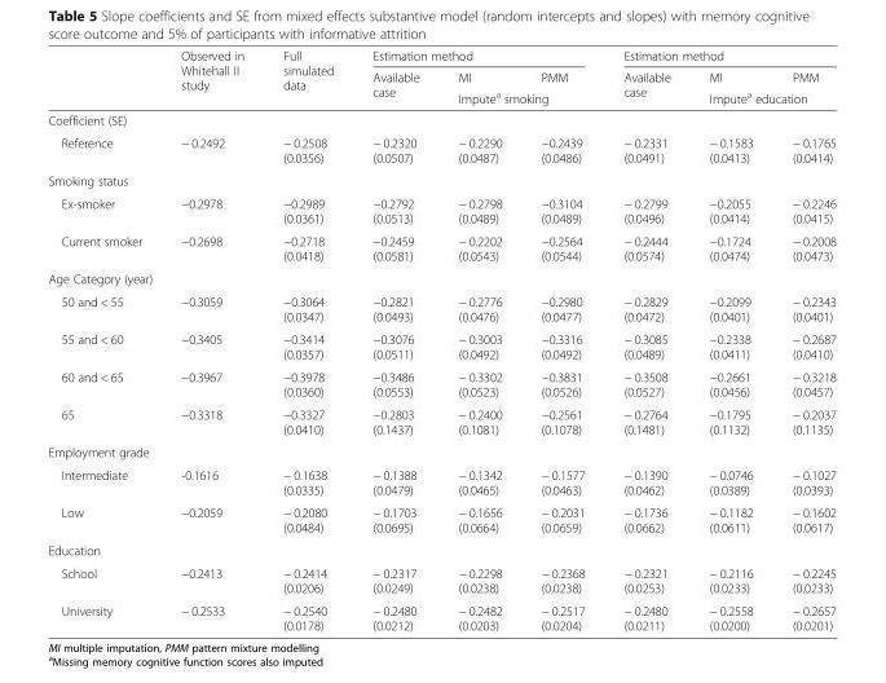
<table><thead><tr><td rowspan="3"></td><td rowspan="3">Observed in Whitehall II study</td><td rowspan="3">Full simulated data</td><td colspan="3">Estimation method</td><td colspan="3">Estimation method</td></tr><tr><td rowspan="2">Available case</td><td>MI</td><td>PMM</td><td rowspan="2">Available case</td><td>MI</td><td>PMM</td></tr><tr><td colspan="2">Impute<sup>a</sup> smoking</td><td colspan="2">Impute<sup>a</sup> education</td></tr></thead><tbody><tr><td colspan="9">Coefficient (SE)</td></tr><tr><td>Reference</td><td>− 0.2492</td><td>− 0.2508 (0.0356)</td><td>− 0.2320 (0.0507)</td><td>− 0.2290 (0.0487)</td><td>−0.2439 (0.0486)</td><td>− 0.2331 (0.0491)</td><td>− 0.1583 (0.0413)</td><td>− 0.1765 (0.0414)</td></tr><tr><td colspan="9">Smoking status</td></tr><tr><td>Ex-smoker</td><td>−0.2978</td><td>−0.2989 (0.0361)</td><td>−0.2792 (0.0513)</td><td>− 0.2798 (0.0489)</td><td>−0.3104 (0.0489)</td><td>− 0.2799 (0.0496)</td><td>−0.2055 (0.0414)</td><td>− 0.2246 (0.0415)</td></tr><tr><td>Current smoker</td><td>−0.2698</td><td>−0.2718 (0.0418)</td><td>−0.2459 (0.0581)</td><td>− 0.2202 (0.0543)</td><td>−0.2564 (0.0544)</td><td>− 0.2444 (0.0574)</td><td>−0.1724 (0.0474)</td><td>− 0.2008 (0.0473)</td></tr><tr><td colspan="9">Age Category (year)</td></tr><tr><td>50 and &lt; 55</td><td>−0.3059</td><td>−0.3064 (0.0347)</td><td>−0.2821 (0.0493)</td><td>− 0.2776 (0.0476)</td><td>−0.2980 (0.0477)</td><td>− 0.2829 (0.0472)</td><td>−0.2099 (0.0401)</td><td>− 0.2343 (0.0401)</td></tr><tr><td>55 and &lt; 60</td><td>−0.3405</td><td>−0.3414 (0.0357)</td><td>−0.3076 (0.0511)</td><td>− 0.3003 (0.0492)</td><td>−0.3316 (0.0492)</td><td>− 0.3085 (0.0489)</td><td>−0.2338 (0.0411)</td><td>− 0.2687 (0.0410)</td></tr><tr><td>60 and &lt; 65</td><td>−0.3967</td><td>−0.3978 (0.0360)</td><td>−0.3486 (0.0553)</td><td>− 0.3302 (0.0523)</td><td>−0.3831 (0.0526)</td><td>− 0.3508 (0.0527)</td><td>−0.2661 (0.0456)</td><td>− 0.3218 (0.0457)</td></tr><tr><td>65</td><td>−0.3318</td><td>−0.3327 (0.0410)</td><td>−0.2803 (0.1437)</td><td>− 0.2400 (0.1081)</td><td>−0.2561 (0.1078)</td><td>− 0.2764 (0.1481)</td><td>−0.1795 (0.1132)</td><td>− 0.2037 (0.1135)</td></tr><tr><td colspan="9">Employment grade</td></tr><tr><td>Intermediate</td><td>-0.1616</td><td>− 0.1638 (0.0335)</td><td>− 0.1388 (0.0479)</td><td>− 0.1342 (0.0465)</td><td>− 0.1577 (0.0463)</td><td>− 0.1390 (0.0462)</td><td>− 0.0746 (0.0389)</td><td>− 0.1027 (0.0393)</td></tr><tr><td>Low</td><td>−0.2059</td><td>− 0.2080 (0.0484)</td><td>− 0.1703 (0.0695)</td><td>− 0.1656 (0.0664)</td><td>− 0.2031 (0.0659)</td><td>− 0.1736 (0.0662)</td><td>− 0.1182 (0.0611)</td><td>− 0.1602 (0.0617)</td></tr><tr><td colspan="9">Education</td></tr><tr><td>School</td><td>−0.2413</td><td>− 0.2414 (0.0206)</td><td>− 0.2317 (0.0249)</td><td>− 0.2298 (0.0238)</td><td>− 0.2368 (0.0238)</td><td>− 0.2321 (0.0253)</td><td>− 0.2116 (0.0233)</td><td>− 0.2245 (0.0233)</td></tr><tr><td>University</td><td>− 0.2533</td><td>− 0.2540 (0.0178)</td><td>− 0.2480 (0.0212)</td><td>− 0.2482 (0.0203)</td><td>− 0.2517 (0.0204)</td><td>− 0.2480 (0.0211)</td><td>− 0.2558 (0.0200)</td><td>− 0.2657 (0.0201)</td></tr></tbody></table>